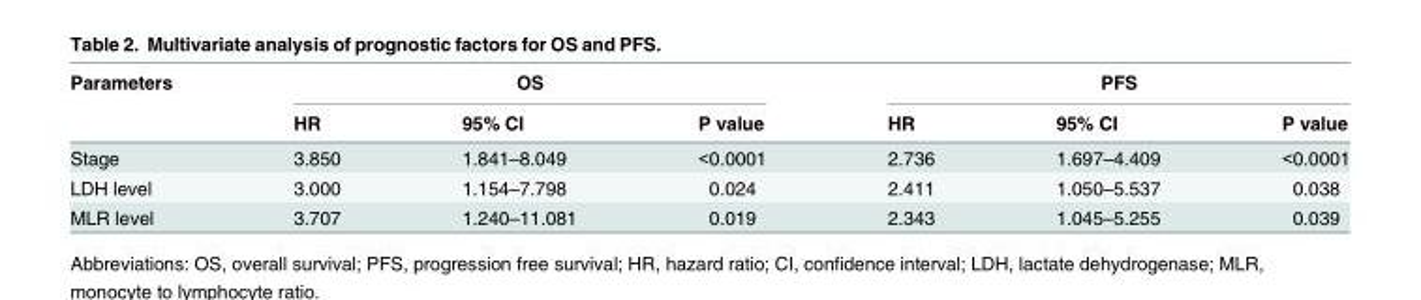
<table><thead><tr><td rowspan="2">Parameters</td><td colspan="3">OS</td><td colspan="3">PFS</td></tr><tr><td>HR</td><td>95% CI</td><td>P value</td><td>HR</td><td>95% CI</td><td>P value</td></tr></thead><tbody><tr><td>Stage</td><td>3.850</td><td>1.841–8.049</td><td>&lt;0.0001</td><td>2.736</td><td>1.697–4.409</td><td>&lt;0.0001</td></tr><tr><td>LDH level</td><td>3.000</td><td>1.154–7.798</td><td>0.024</td><td>2.411</td><td>1.050–5.537</td><td>0.038</td></tr><tr><td>MLR level</td><td>3.707</td><td>1.240–11.081</td><td>0.019</td><td>2.343</td><td>1.045–5.255</td><td>0.039</td></tr></tbody></table>